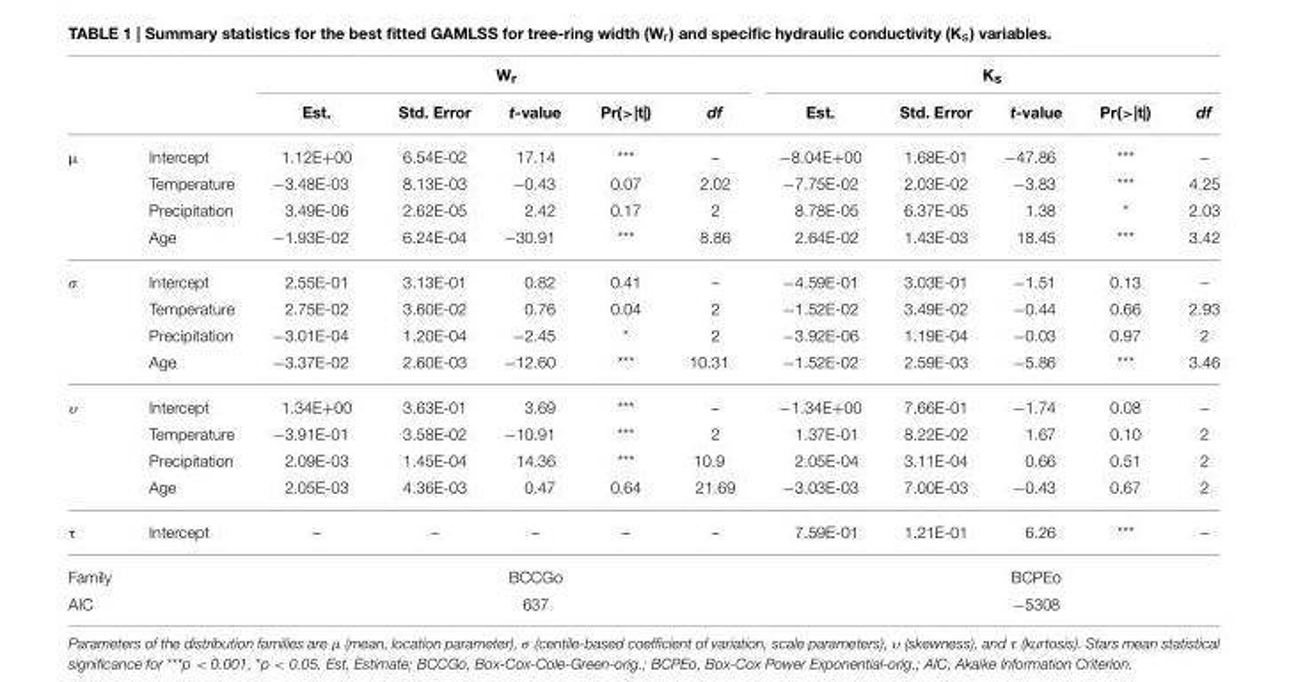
<table><thead><tr><td rowspan="2"></td><td rowspan="2"></td><td colspan="5">W<sub>r</sub></td><td colspan="5">K<sub>s</sub></td></tr><tr><td>Est.</td><td>Std. Error</td><td>t-value</td><td>Pr(&gt;|t|)</td><td>df</td><td>Est.</td><td>Std. Error</td><td>t-value</td><td>Pr(&gt;|t|)</td><td>df</td></tr></thead><tbody><tr><td rowspan="4">µ</td><td>Intercept</td><td>1.12E+00</td><td>6.54E-02</td><td>17.14</td><td>***</td><td>–</td><td>−8.04E+00</td><td>1.68E-01</td><td>−47.86</td><td>***</td><td>–</td></tr><tr><td>Temperature</td><td>−3.48E-03</td><td>8.13E-03</td><td>−0.43</td><td>0.07</td><td>2.02</td><td>−7.75E-02</td><td>2.03E-02</td><td>−3.83</td><td>***</td><td>4.25</td></tr><tr><td>Precipitation</td><td>3.49E-06</td><td>2.62E-05</td><td>2.42</td><td>0.17</td><td>2</td><td>8.78E-05</td><td>6.37E-05</td><td>1.38</td><td>*</td><td>2.03</td></tr><tr><td>Age</td><td>−1.93E-02</td><td>6.24E-04</td><td>−30.91</td><td>***</td><td>8.86</td><td>2.64E-02</td><td>1.43E-03</td><td>18.45</td><td>***</td><td>3.42</td></tr><tr><td rowspan="4">σ</td><td>Intercept</td><td>2.55E-01</td><td>3.13E-01</td><td>0.82</td><td>0.41</td><td>–</td><td>−4.59E-01</td><td>3.03E-01</td><td>−1.51</td><td>0.13</td><td>–</td></tr><tr><td>Temperature</td><td>2.75E-02</td><td>3.60E-02</td><td>0.76</td><td>0.04</td><td>2</td><td>−1.52E-02</td><td>3.49E-02</td><td>−0.44</td><td>0.66</td><td>2.93</td></tr><tr><td>Precipitation</td><td>−3.01E-04</td><td>1.20E-04</td><td>−2.45</td><td>*</td><td>2</td><td>−3.92E-06</td><td>1.19E-04</td><td>−0.03</td><td>0.97</td><td>2</td></tr><tr><td>Age</td><td>−3.37E-02</td><td>2.60E-03</td><td>−12.60</td><td>***</td><td>10.31</td><td>−1.52E-02</td><td>2.59E-03</td><td>−5.86</td><td>***</td><td>3.46</td></tr><tr><td rowspan="4">υ</td><td>Intercept</td><td>1.34E+00</td><td>3.63E-01</td><td>3.69</td><td>***</td><td>–</td><td>−1.34E+00</td><td>7.66E-01</td><td>−1.74</td><td>0.08</td><td>–</td></tr><tr><td>Temperature</td><td>−3.91E-01</td><td>3.58E-02</td><td>−10.91</td><td>***</td><td>2</td><td>1.37E-01</td><td>8.22E-02</td><td>1.67</td><td>0.10</td><td>2</td></tr><tr><td>Precipitation</td><td>2.09E-03</td><td>1.45E-04</td><td>14.36</td><td>***</td><td>10.9</td><td>2.05E-04</td><td>3.11E-04</td><td>0.66</td><td>0.51</td><td>2</td></tr><tr><td>Age</td><td>2.05E-03</td><td>4.36E-03</td><td>0.47</td><td>0.64</td><td>21.69</td><td>−3.03E-03</td><td>7.00E-03</td><td>−0.43</td><td>0.67</td><td>2</td></tr><tr><td>τ</td><td>Intercept</td><td>–</td><td>–</td><td>–</td><td>–</td><td>–</td><td>7.59E-01</td><td>1.21E-01</td><td>6.26</td><td>***</td><td>–</td></tr><tr><td>Family</td><td></td><td></td><td></td><td>BCCGo</td><td></td><td></td><td></td><td></td><td>BCPEo</td><td></td><td></td></tr><tr><td>AIC</td><td></td><td></td><td></td><td>637</td><td></td><td></td><td></td><td></td><td>−5308</td><td></td><td></td></tr></tbody></table>